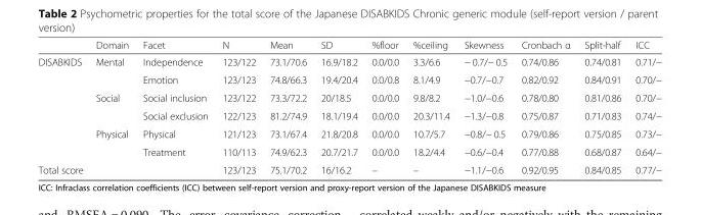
<table><thead><tr><td></td><td>Domain</td><td>Facet</td><td>N</td><td>Mean</td><td>SD</td><td>%floor</td><td>%ceiling</td><td>Skewness</td><td>Cronbach α</td><td>Split-half</td><td>ICC</td></tr></thead><tbody><tr><td rowspan="6">DISABKIDS</td><td rowspan="2">Mental</td><td>Independence</td><td>123/122</td><td>73.1/70.6</td><td>16.9/18.2</td><td>0.0/0.0</td><td>3.3/6.6</td><td>− 0.7/− 0.5</td><td>0.74/0.86</td><td>0.74/0.81</td><td>0.71/−</td></tr><tr><td>Emotion</td><td>123/123</td><td>74.8/66.3</td><td>19.4/20.4</td><td>0.0/0.8</td><td>8.1/4.9</td><td>−0.7/−0.7</td><td>0.82/0.92</td><td>0.84/0.91</td><td>0.70/−</td></tr><tr><td rowspan="2">Social</td><td>Social inclusion</td><td>123/122</td><td>73.3/72.2</td><td>20/18.5</td><td>0.0/0.0</td><td>9.8/8.2</td><td>−1.0/−0.6</td><td>0.78/0.80</td><td>0.81/0.86</td><td>0.70/−</td></tr><tr><td>Social exclusion</td><td>122/123</td><td>81.2/74.9</td><td>18.1/19.4</td><td>0.0/0.0</td><td>20.3/11.4</td><td>−1.3/−0.8</td><td>0.75/0.87</td><td>0.71/0.83</td><td>0.74/−</td></tr><tr><td rowspan="2">Physical</td><td>Physical</td><td>121/123</td><td>73.1/67.4</td><td>21.8/20.8</td><td>0.0/0.0</td><td>10.7/5.7</td><td>−0.8/− 0.5</td><td>0.79/0.86</td><td>0.75/0.85</td><td>0.73/−</td></tr><tr><td>Treatment</td><td>110/113</td><td>74.9/62.3</td><td>20.7/21.7</td><td>0.0/0.0</td><td>18.2/4.4</td><td>−0.6/−0.4</td><td>0.77/0.88</td><td>0.68/0.87</td><td>0.64/−</td></tr><tr><td colspan="3">Total score</td><td>123/123</td><td>75.1/70.2</td><td>16/16.2</td><td>–</td><td>–</td><td>−1.1/−0.6</td><td>0.92/0.95</td><td>0.84/0.85</td><td>0.77/−</td></tr></tbody></table>